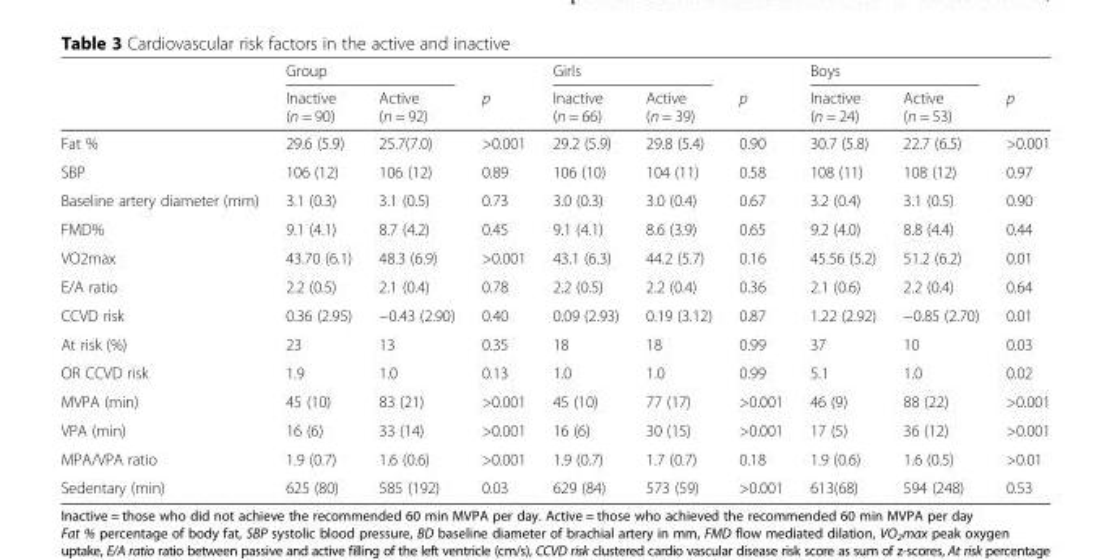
<table><thead><tr><td rowspan="2"></td><td colspan="2">Group</td><td rowspan="2">p</td><td colspan="2">Girls</td><td rowspan="2">p</td><td colspan="2">Boys</td><td rowspan="2">p</td></tr><tr><td>Inactive (n = 90)</td><td>Active (n = 92)</td><td>Inactive (n = 66)</td><td>Active (n = 39)</td><td>Inactive (n = 24)</td><td>Active (n = 53)</td></tr></thead><tbody><tr><td>Fat %</td><td>29.6 (5.9)</td><td>25.7(7.0)</td><td>&gt;0.001</td><td>29.2 (5.9)</td><td>29.8 (5.4)</td><td>0.90</td><td>30.7 (5.8)</td><td>22.7 (6.5)</td><td>&gt;0.001</td></tr><tr><td>SBP</td><td>106 (12)</td><td>106 (12)</td><td>0.89</td><td>106 (10)</td><td>104 (11)</td><td>0.58</td><td>108 (11)</td><td>108 (12)</td><td>0.97</td></tr><tr><td>Baseline artery diameter (mm)</td><td>3.1 (0.3)</td><td>3.1 (0.5)</td><td>0.73</td><td>3.0 (0.3)</td><td>3.0 (0.4)</td><td>0.67</td><td>3.2 (0.4)</td><td>3.1 (0.5)</td><td>0.90</td></tr><tr><td>FMD%</td><td>9.1 (4.1)</td><td>8.7 (4.2)</td><td>0.45</td><td>9.1 (4.1)</td><td>8.6 (3.9)</td><td>0.65</td><td>9.2 (4.0)</td><td>8.8 (4.4)</td><td>0.44</td></tr><tr><td>VO2max</td><td>43.70 (6.1)</td><td>48.3 (6.9)</td><td>&gt;0.001</td><td>43.1 (6.3)</td><td>44.2 (5.7)</td><td>0.16</td><td>45.56 (5.2)</td><td>51.2 (6.2)</td><td>0.01</td></tr><tr><td>E/A ratio</td><td>2.2 (0.5)</td><td>2.1 (0.4)</td><td>0.78</td><td>2.2 (0.5)</td><td>2.2 (0.4)</td><td>0.36</td><td>2.1 (0.6)</td><td>2.2 (0.4)</td><td>0.64</td></tr><tr><td>CCVD risk</td><td>0.36 (2.95)</td><td>−0.43 (2.90)</td><td>0.40</td><td>0.09 (2.93)</td><td>0.19 (3.12)</td><td>0.87</td><td>1.22 (2.92)</td><td>−0.85 (2.70)</td><td>0.01</td></tr><tr><td>At risk (%)</td><td>23</td><td>13</td><td>0.35</td><td>18</td><td>18</td><td>0.99</td><td>37</td><td>10</td><td>0.03</td></tr><tr><td>OR CCVD risk</td><td>1.9</td><td>1.0</td><td>0.13</td><td>1.0</td><td>1.0</td><td>0.99</td><td>5.1</td><td>1.0</td><td>0.02</td></tr><tr><td>MVPA (min)</td><td>45 (10)</td><td>83 (21)</td><td>&gt;0.001</td><td>45 (10)</td><td>77 (17)</td><td>&gt;0.001</td><td>46 (9)</td><td>88 (22)</td><td>&gt;0.001</td></tr><tr><td>VPA (min)</td><td>16 (6)</td><td>33 (14)</td><td>&gt;0.001</td><td>16 (6)</td><td>30 (15)</td><td>&gt;0.001</td><td>17 (5)</td><td>36 (12)</td><td>&gt;0.001</td></tr><tr><td>MPA/VPA ratio</td><td>1.9 (0.7)</td><td>1.6 (0.6)</td><td>&gt;0.001</td><td>1.9 (0.7)</td><td>1.7 (0.7)</td><td>0.18</td><td>1.9 (0.6)</td><td>1.6 (0.5)</td><td>&gt;0.01</td></tr><tr><td>Sedentary (min)</td><td>625 (80)</td><td>585 (192)</td><td>0.03</td><td>629 (84)</td><td>573 (59)</td><td>&gt;0.001</td><td>613(68)</td><td>594 (248)</td><td>0.53</td></tr></tbody></table>